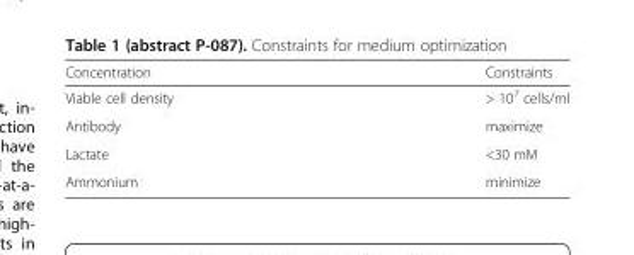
<table><thead><tr><td>Concentration</td><td>Constraints</td></tr></thead><tbody><tr><td>Viable cell density</td><td>&gt; 10<sup>7</sup> cells/ml</td></tr><tr><td>Antibody</td><td>maximize</td></tr><tr><td>Lactate</td><td>&lt;30 mM</td></tr><tr><td>Ammonium</td><td>minimize</td></tr></tbody></table>